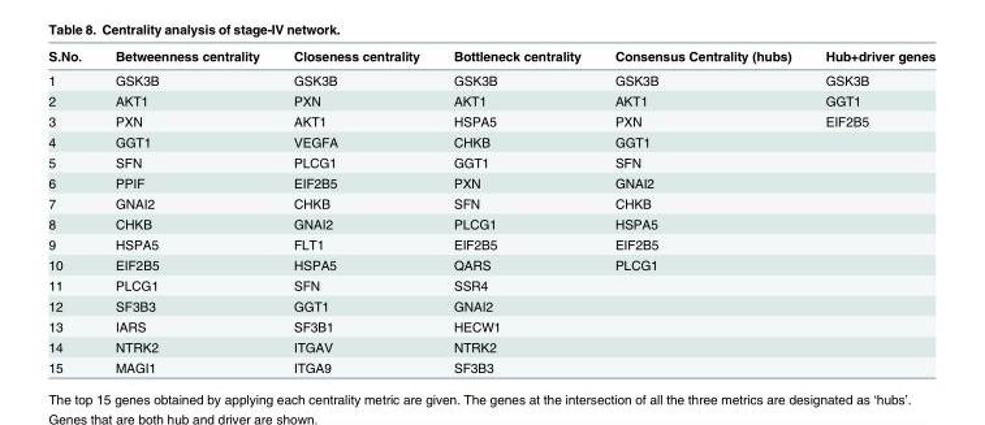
<table><thead><tr><td>S.No.</td><td>Betweenness centrality</td><td>Closeness centrality</td><td>Bottleneck centrality</td><td>Consensus Centrality (hubs)</td><td>Hub+driver genes</td></tr></thead><tbody><tr><td>1</td><td>GSK3B</td><td>GSK3B</td><td>GSK3B</td><td>GSK3B</td><td>GSK3B</td></tr><tr><td>2</td><td>AKT1</td><td>PXN</td><td>AKT1</td><td>AKT1</td><td>GGT1</td></tr><tr><td>3</td><td>PXN</td><td>AKT1</td><td>HSPA5</td><td>PXN</td><td>EIF2B5</td></tr><tr><td>4</td><td>GGT1</td><td>VEGFA</td><td>CHKB</td><td>GGT1</td><td></td></tr><tr><td>5</td><td>SFN</td><td>PLCG1</td><td>GGT1</td><td>SFN</td><td></td></tr><tr><td>6</td><td>PPIF</td><td>EIF2B5</td><td>PXN</td><td>GNAI2</td><td></td></tr><tr><td>7</td><td>GNAI2</td><td>CHKB</td><td>SFN</td><td>CHKB</td><td></td></tr><tr><td>8</td><td>CHKB</td><td>GNAI2</td><td>PLCG1</td><td>HSPA5</td><td></td></tr><tr><td>9</td><td>HSPA5</td><td>FLT1</td><td>EIF2B5</td><td>EIF2B5</td><td></td></tr><tr><td>10</td><td>EIF2B5</td><td>HSPA5</td><td>QARS</td><td>PLCG1</td><td></td></tr><tr><td>11</td><td>PLCG1</td><td>SFN</td><td>SSR4</td><td></td><td></td></tr><tr><td>12</td><td>SF3B3</td><td>GGT1</td><td>GNAI2</td><td></td><td></td></tr><tr><td>13</td><td>IARS</td><td>SF3B1</td><td>HECW1</td><td></td><td></td></tr><tr><td>14</td><td>NTRK2</td><td>ITGAV</td><td>NTRK2</td><td></td><td></td></tr><tr><td>15</td><td>MAGI1</td><td>ITGA9</td><td>SF3B3</td><td></td><td></td></tr></tbody></table>